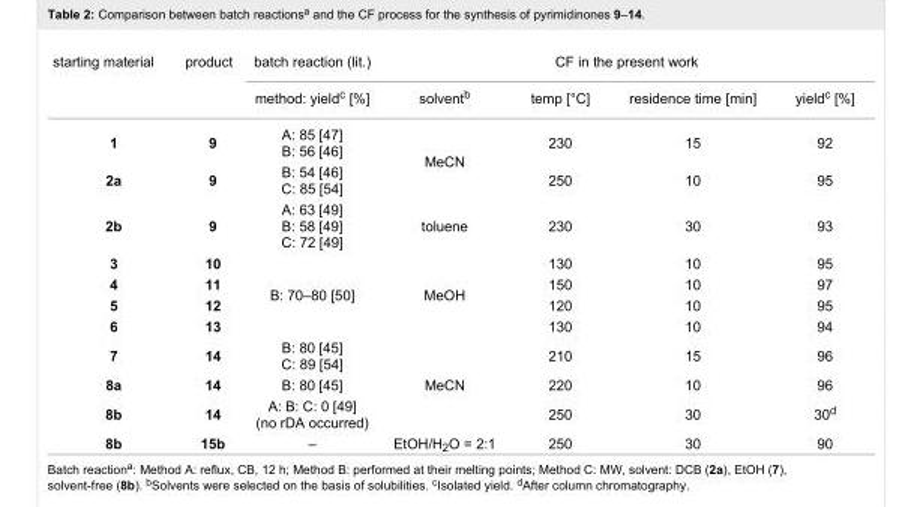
<table><tbody><tr><td rowspan="2">starting material</td><td>product</td><td>batch reaction (lit.)</td><td colspan="4">CF in the present work</td></tr><tr><td></td><td>method: yield<sup>c</sup> [%]</td><td>solvent<sup>b</sup></td><td>temp [°C]</td><td>residence time [min]</td><td>yield<sup>c</sup> [%]</td></tr><tr><td>1</td><td>9</td><td>A: 85 [47] B: 56 [46]</td><td rowspan="2">MeCN</td><td>230</td><td>15</td><td>92</td></tr><tr><td>2a</td><td>9</td><td>B: 54 [46] C: 85 [54]</td><td>250</td><td>10</td><td>95</td></tr><tr><td>2b</td><td>9</td><td>A: 63 [49] B: 58 [49] C: 72 [49]</td><td>toluene</td><td>230</td><td>30</td><td>93</td></tr><tr><td>3</td><td>10</td><td rowspan="4">B: 70–80 [50]</td><td rowspan="4">MeOH</td><td>130</td><td>10</td><td>95</td></tr><tr><td>4</td><td>11</td><td>150</td><td>10</td><td>97</td></tr><tr><td>5</td><td>12</td><td>120</td><td>10</td><td>95</td></tr><tr><td>6</td><td>13</td><td>130</td><td>10</td><td>94</td></tr><tr><td>7</td><td>14</td><td>B: 80 [45] C: 89 [54]</td><td rowspan="3">MeCN</td><td>210</td><td>15</td><td>96</td></tr><tr><td>8a</td><td>14</td><td>B: 80 [45]</td><td>220</td><td>10</td><td>96</td></tr><tr><td>8b</td><td>14</td><td>A: B: C: 0 [49] (no rDA occurred)</td><td>250</td><td>30</td><td>30<sup>d</sup></td></tr><tr><td>8b</td><td>15b</td><td>–</td><td>EtOH/H<sub>2</sub>O = 2:1</td><td>250</td><td>30</td><td>90</td></tr></tbody></table>